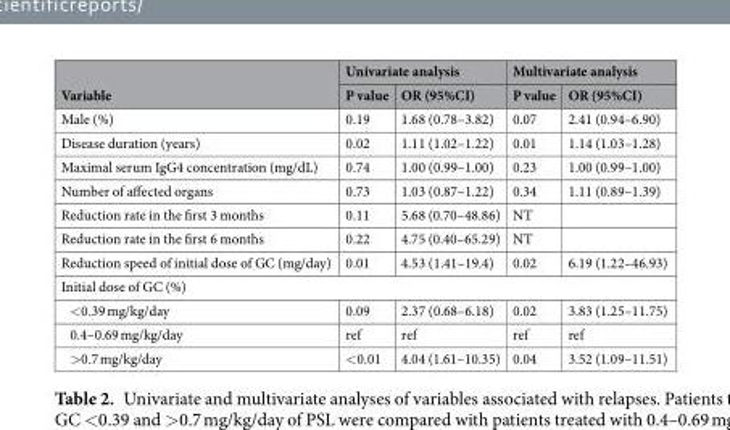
<table><thead><tr><td rowspan="2">Variable</td><td colspan="2">Univariate analysis</td><td colspan="2">Multivariate analysis</td></tr><tr><td>P value</td><td>OR (95%CI)</td><td>P value</td><td>OR (95%CI)</td></tr></thead><tbody><tr><td>Male (%)</td><td>0.19</td><td>1.68 (0.78–3.82)</td><td>0.07</td><td>2.41 (0.94–6.90)</td></tr><tr><td>Disease duration (years)</td><td>0.02</td><td>1.11 (1.02–1.22)</td><td>0.01</td><td>1.14 (1.03–1.28)</td></tr><tr><td>Maximal serum IgG4 concentration (mg/dL)</td><td>0.74</td><td>1.00 (0.99–1.00)</td><td>0.23</td><td>1.00 (0.99–1.00)</td></tr><tr><td>Number of affected organs</td><td>0.73</td><td>1.03 (0.87–1.22)</td><td>0.34</td><td>1.11 (0.89–1.39)</td></tr><tr><td>Reduction rate in the first 3 months</td><td>0.11</td><td>5.68 (0.70–48.86)</td><td>NT</td><td></td></tr><tr><td>Reduction rate in the first 6 months</td><td>0.22</td><td>4.75 (0.40–65.29)</td><td>NT</td><td></td></tr><tr><td>Reduction speed of initial dose of GC (mg/day)</td><td>0.01</td><td>4.53 (1.41–19.4)</td><td>0.02</td><td>6.19 (1.22–46.93)</td></tr><tr><td colspan="5">Initial dose of GC (%)</td></tr><tr><td>&lt;0.39 mg/kg/day</td><td>0.09</td><td>2.37 (0.68–6.18)</td><td>0.02</td><td>3.83 (1.25–11.75)</td></tr><tr><td>0.4–0.69 mg/kg/day</td><td>ref</td><td>ref</td><td>ref</td><td>ref</td></tr><tr><td>&gt;0.7 mg/kg/day</td><td>&lt;0.01</td><td>4.04 (1.61–10.35)</td><td>0.04</td><td>3.52 (1.09–11.51)</td></tr></tbody></table>